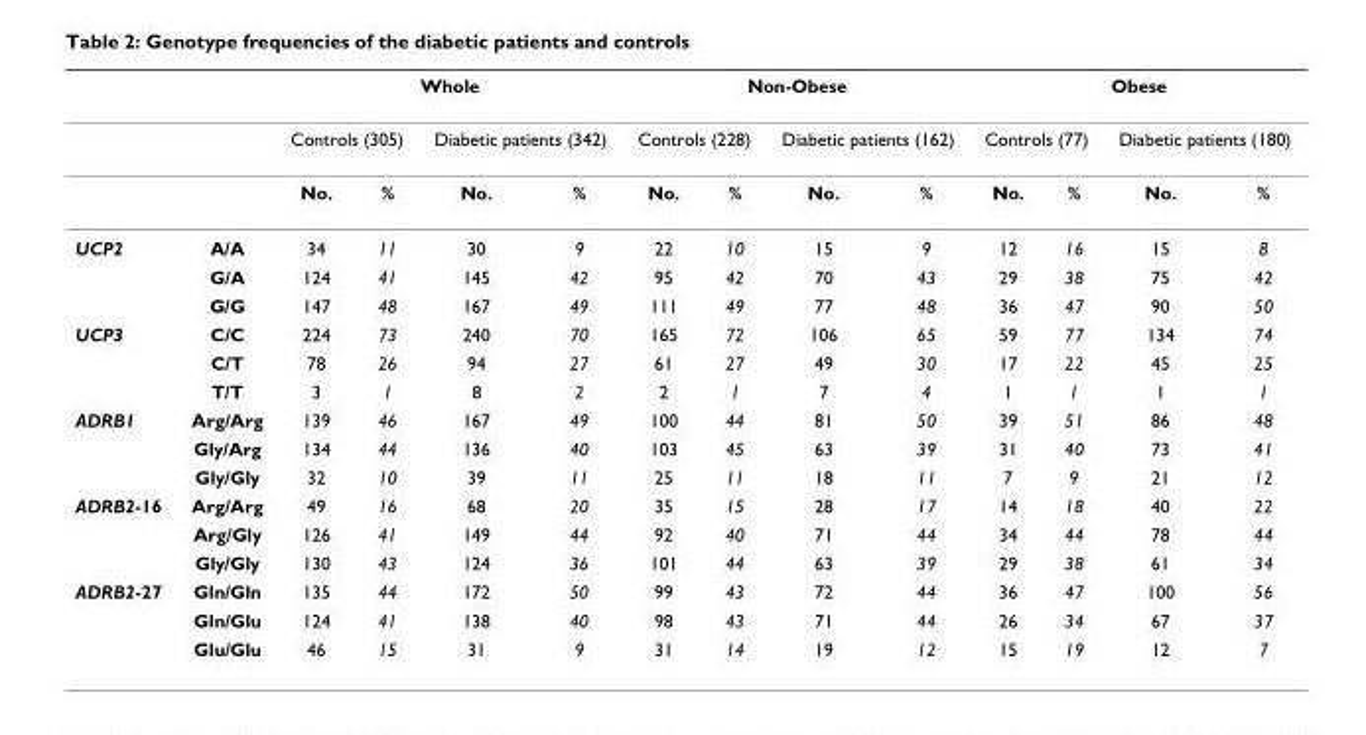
<table><thead><tr><td rowspan="3"></td><td rowspan="3"></td><td colspan="4">Whole</td><td colspan="4">Non-Obese</td><td colspan="4">Obese</td></tr><tr><td colspan="2">Controls (305)</td><td colspan="2">Diabetic patients (342)</td><td colspan="2">Controls (228)</td><td colspan="2">Diabetic patients (162)</td><td colspan="2">Controls (77)</td><td colspan="2">Diabetic patients (180)</td></tr><tr><td>No.</td><td>%</td><td>No.</td><td>%</td><td>No.</td><td>%</td><td>No.</td><td>%</td><td>No.</td><td>%</td><td>No.</td><td>%</td></tr></thead><tbody><tr><td rowspan="3">UCP2</td><td>A/A</td><td>34</td><td>11</td><td>30</td><td>9</td><td>22</td><td>10</td><td>15</td><td>9</td><td>12</td><td>16</td><td>15</td><td>8</td></tr><tr><td>G/A</td><td>124</td><td>41</td><td>145</td><td>42</td><td>95</td><td>42</td><td>70</td><td>43</td><td>29</td><td>38</td><td>75</td><td>42</td></tr><tr><td>G/G</td><td>147</td><td>48</td><td>167</td><td>49</td><td>111</td><td>49</td><td>77</td><td>48</td><td>36</td><td>47</td><td>90</td><td>50</td></tr><tr><td rowspan="3">UCP3</td><td>C/C</td><td>224</td><td>73</td><td>240</td><td>70</td><td>165</td><td>72</td><td>106</td><td>65</td><td>59</td><td>77</td><td>134</td><td>74</td></tr><tr><td>C/T</td><td>78</td><td>26</td><td>94</td><td>27</td><td>61</td><td>27</td><td>49</td><td>30</td><td>17</td><td>22</td><td>45</td><td>25</td></tr><tr><td>T/T</td><td>3</td><td>1</td><td>8</td><td>2</td><td>2</td><td>1</td><td>7</td><td>4</td><td>1</td><td>1</td><td>1</td><td>1</td></tr><tr><td rowspan="3">ADRB1</td><td>Arg/Arg</td><td>139</td><td>46</td><td>167</td><td>49</td><td>100</td><td>44</td><td>81</td><td>50</td><td>39</td><td>51</td><td>86</td><td>48</td></tr><tr><td>Gly/Arg</td><td>134</td><td>44</td><td>136</td><td>40</td><td>103</td><td>45</td><td>63</td><td>39</td><td>31</td><td>40</td><td>73</td><td>41</td></tr><tr><td>Gly/Gly</td><td>32</td><td>10</td><td>39</td><td>11</td><td>25</td><td>11</td><td>18</td><td>11</td><td>7</td><td>9</td><td>21</td><td>12</td></tr><tr><td rowspan="3">ADRB2-16</td><td>Arg/Arg</td><td>49</td><td>16</td><td>68</td><td>20</td><td>35</td><td>15</td><td>28</td><td>17</td><td>14</td><td>18</td><td>40</td><td>22</td></tr><tr><td>Arg/Gly</td><td>126</td><td>41</td><td>149</td><td>44</td><td>92</td><td>40</td><td>71</td><td>44</td><td>34</td><td>44</td><td>78</td><td>44</td></tr><tr><td>Gly/Gly</td><td>130</td><td>43</td><td>124</td><td>36</td><td>101</td><td>44</td><td>63</td><td>39</td><td>29</td><td>38</td><td>61</td><td>34</td></tr><tr><td rowspan="3">ADRB2-27</td><td>Gln/Gln</td><td>135</td><td>44</td><td>172</td><td>50</td><td>99</td><td>43</td><td>72</td><td>44</td><td>36</td><td>47</td><td>100</td><td>56</td></tr><tr><td>Gln/Glu</td><td>124</td><td>41</td><td>138</td><td>40</td><td>98</td><td>43</td><td>71</td><td>44</td><td>26</td><td>34</td><td>67</td><td>37</td></tr><tr><td>Glu/Glu</td><td>46</td><td>15</td><td>31</td><td>9</td><td>31</td><td>14</td><td>19</td><td>12</td><td>15</td><td>19</td><td>12</td><td>7</td></tr></tbody></table>